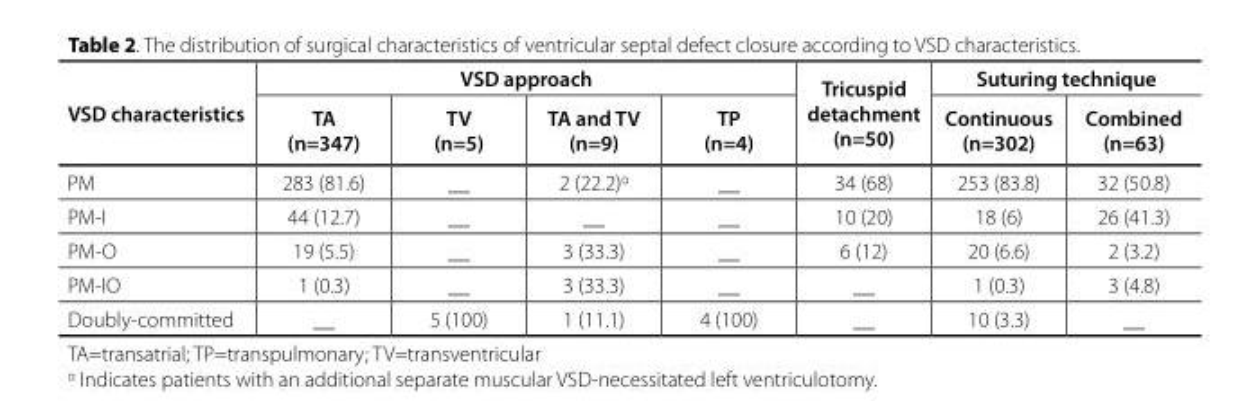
<table><thead><tr><td rowspan="2">VSD characteristics</td><td colspan="4">VSD approach</td><td rowspan="2">Tricuspid detachment (n=50)</td><td colspan="2">Suturing technique</td></tr><tr><td>TA (n=347)</td><td>TV (n=5)</td><td>TA and TV (n=9)</td><td>TP (n=4)</td><td>Continuous (n=302)</td><td>Combined (n=63)</td></tr></thead><tbody><tr><td>PM</td><td>283 (81.6)</td><td>__</td><td>2 (22.2)<sup>α</sup></td><td>__</td><td>34 (68)</td><td>253 (83.8)</td><td>32 (50.8)</td></tr><tr><td>PM-I</td><td>44 (12.7)</td><td>__</td><td>__</td><td>__</td><td>10 (20)</td><td>18 (6)</td><td>26 (41.3)</td></tr><tr><td>PM-O</td><td>19 (5.5)</td><td>__</td><td>3 (33.3)</td><td>__</td><td>6 (12)</td><td>20 (6.6)</td><td>2 (3.2)</td></tr><tr><td>PM-IO</td><td>1 (0.3)</td><td>__</td><td>3 (33.3)</td><td>__</td><td>__</td><td>1 (0.3)</td><td>3 (4.8)</td></tr><tr><td>Doubly-committed</td><td>__</td><td>5 (100)</td><td>1 (11.1)</td><td>4 (100)</td><td>__</td><td>10 (3.3)</td><td>__</td></tr></tbody></table>